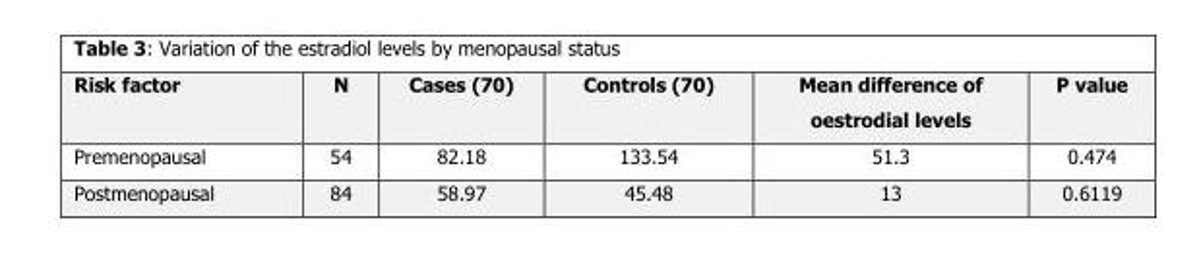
<table><thead><tr><td>Risk factor</td><td>N</td><td>Cases (70)</td><td>Controls (70)</td><td>Mean difference of oestrodial levels</td><td>P value</td></tr></thead><tbody><tr><td>Premenopausal</td><td>54</td><td>82.18</td><td>133.54</td><td>51.3</td><td>0.474</td></tr><tr><td>Postmenopausal</td><td>84</td><td>58.97</td><td>45.48</td><td>13</td><td>0.6119</td></tr></tbody></table>